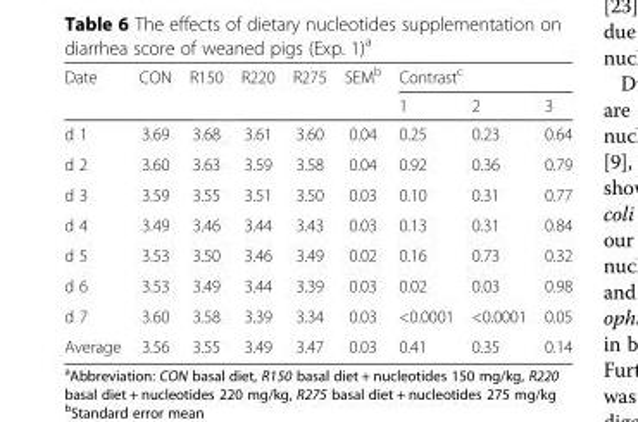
<table><thead><tr><td rowspan="2">Date</td><td rowspan="2">CON</td><td rowspan="2">R150</td><td rowspan="2">R220</td><td rowspan="2">R275</td><td rowspan="2">SEM<sup>b</sup></td><td colspan="3">Contrast<sup>c</sup></td></tr><tr><td>1</td><td>2</td><td>3</td></tr></thead><tbody><tr><td>d 1</td><td>3.69</td><td>3.68</td><td>3.61</td><td>3.60</td><td>0.04</td><td>0.25</td><td>0.23</td><td>0.64</td></tr><tr><td>d 2</td><td>3.60</td><td>3.63</td><td>3.59</td><td>3.58</td><td>0.04</td><td>0.92</td><td>0.36</td><td>0.79</td></tr><tr><td>d 3</td><td>3.59</td><td>3.55</td><td>3.51</td><td>3.50</td><td>0.03</td><td>0.10</td><td>0.31</td><td>0.77</td></tr><tr><td>d 4</td><td>3.49</td><td>3.46</td><td>3.44</td><td>3.43</td><td>0.03</td><td>0.13</td><td>0.31</td><td>0.84</td></tr><tr><td>d 5</td><td>3.53</td><td>3.50</td><td>3.46</td><td>3.49</td><td>0.02</td><td>0.16</td><td>0.73</td><td>0.32</td></tr><tr><td>d 6</td><td>3.53</td><td>3.49</td><td>3.44</td><td>3.39</td><td>0.03</td><td>0.02</td><td>0.03</td><td>0.98</td></tr><tr><td>d 7</td><td>3.60</td><td>3.58</td><td>3.39</td><td>3.34</td><td>0.03</td><td>&lt;0.0001</td><td>&lt;0.0001</td><td>0.05</td></tr><tr><td>Average</td><td>3.56</td><td>3.55</td><td>3.49</td><td>3.47</td><td>0.03</td><td>0.41</td><td>0.35</td><td>0.14</td></tr></tbody></table>